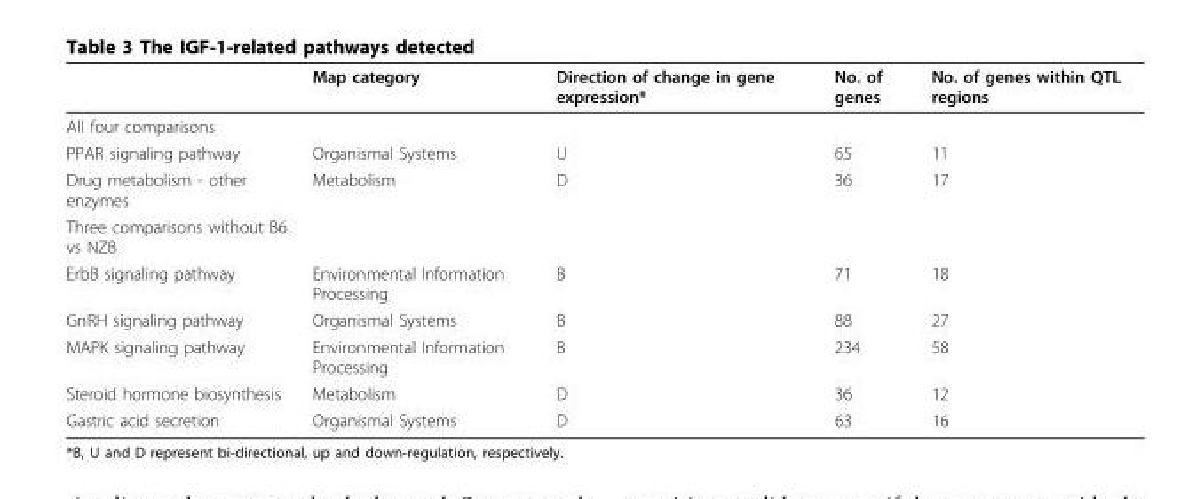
<table><thead><tr><td></td><td>Map category</td><td>Direction of change in gene expression*</td><td>No. of genes</td><td>No. of genes within QTL regions</td></tr></thead><tbody><tr><td colspan="5">All four comparisons</td></tr><tr><td>PPAR signaling pathway</td><td>Organismal Systems</td><td>U</td><td>65</td><td>11</td></tr><tr><td>Drug metabolism - other enzymes</td><td>Metabolism</td><td>D</td><td>36</td><td>17</td></tr><tr><td colspan="5">Three comparisons without B6 vs NZB</td></tr><tr><td>ErbB signaling pathway</td><td>Environmental Information Processing</td><td>B</td><td>71</td><td>18</td></tr><tr><td>GnRH signaling pathway</td><td>Organismal Systems</td><td>B</td><td>88</td><td>27</td></tr><tr><td>MAPK signaling pathway</td><td>Environmental Information Processing</td><td>B</td><td>234</td><td>58</td></tr><tr><td>Steroid hormone biosynthesis</td><td>Metabolism</td><td>D</td><td>36</td><td>12</td></tr><tr><td>Gastric acid secretion</td><td>Organismal Systems</td><td>D</td><td>63</td><td>16</td></tr></tbody></table>